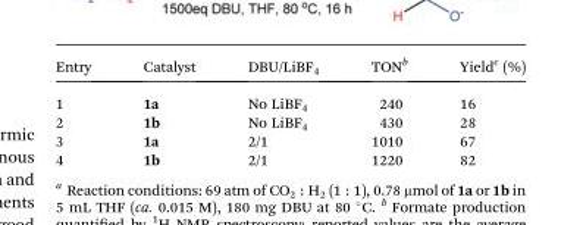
<table><thead><tr><td>Entry</td><td>Catalyst</td><td>DBU/LiBF<sub>4</sub></td><td>TON<sup>b</sup></td><td>Yield<sup>c</sup> (%)</td></tr></thead><tbody><tr><td>1</td><td>1a</td><td>No LiBF<sub>4</sub></td><td>240</td><td>16</td></tr><tr><td>2</td><td>1b</td><td>No LiBF<sub>4</sub></td><td>430</td><td>28</td></tr><tr><td>3</td><td>1a</td><td>2/1</td><td>1010</td><td>67</td></tr><tr><td>4</td><td>1b</td><td>2/1</td><td>1220</td><td>82</td></tr></tbody></table>